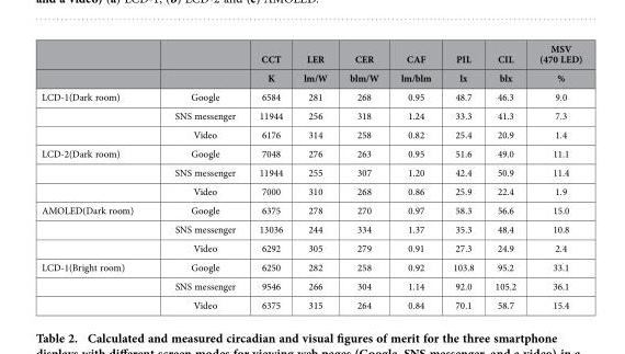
<table><thead><tr><td rowspan="2"></td><td rowspan="2"></td><td rowspan="2">CCT K</td><td rowspan="2">LER lm/W</td><td rowspan="2">CER blm/W</td><td rowspan="2">CAF lm/blm</td><td rowspan="2">PIL lx</td><td rowspan="2">CIL blx</td><td rowspan="2">MSV (470 LED) %</td></tr><tr></tr></thead><tbody><tr><td rowspan="3">LCD-1(Dark room)</td><td>Google</td><td>6584</td><td>281</td><td>268</td><td>0.95</td><td>48.7</td><td>46.3</td><td>9.0</td></tr><tr><td>SNS messenger</td><td>11944</td><td>256</td><td>318</td><td>1.24</td><td>33.3</td><td>41.3</td><td>7.3</td></tr><tr><td>Video</td><td>6176</td><td>314</td><td>258</td><td>0.82</td><td>25.4</td><td>20.9</td><td>1.4</td></tr><tr><td rowspan="3">LCD-2(Dark room)</td><td>Google</td><td>7048</td><td>276</td><td>263</td><td>0.95</td><td>51.6</td><td>49.0</td><td>11.1</td></tr><tr><td>SNS messenger</td><td>11944</td><td>255</td><td>307</td><td>1.20</td><td>42.4</td><td>50.9</td><td>11.4</td></tr><tr><td>Video</td><td>7000</td><td>310</td><td>268</td><td>0.86</td><td>25.9</td><td>22.4</td><td>1.9</td></tr><tr><td rowspan="3">AMOLED(Dark room)</td><td>Google</td><td>6375</td><td>278</td><td>270</td><td>0.97</td><td>58.3</td><td>56.6</td><td>15.0</td></tr><tr><td>SNS messenger</td><td>13036</td><td>244</td><td>334</td><td>1.37</td><td>35.3</td><td>48.4</td><td>10.8</td></tr><tr><td>Video</td><td>6292</td><td>305</td><td>279</td><td>0.91</td><td>27.3</td><td>24.9</td><td>2.4</td></tr><tr><td rowspan="3">LCD-1(Bright room)</td><td>Google</td><td>6250</td><td>282</td><td>258</td><td>0.92</td><td>103.8</td><td>95.2</td><td>33.1</td></tr><tr><td>SNS messenger</td><td>9546</td><td>266</td><td>304</td><td>1.14</td><td>92.0</td><td>105.2</td><td>36.1</td></tr><tr><td>Video</td><td>6375</td><td>315</td><td>264</td><td>0.84</td><td>70.1</td><td>58.7</td><td>15.4</td></tr></tbody></table>